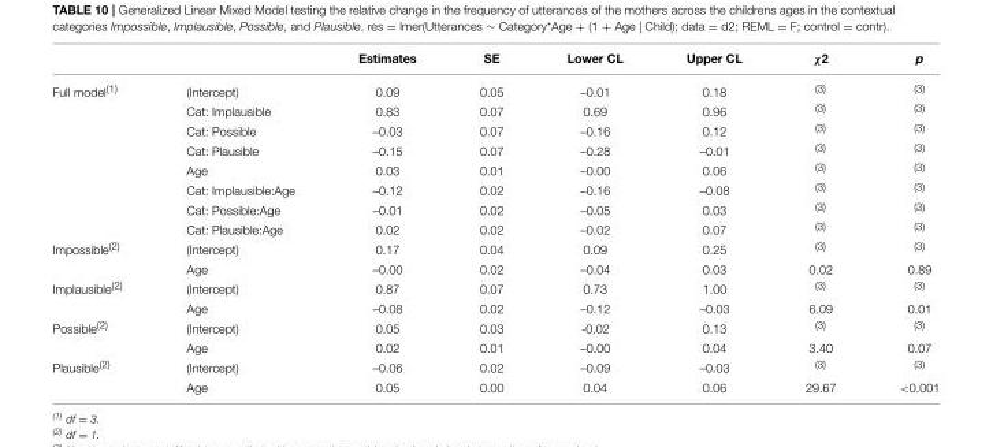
<table><thead><tr><td></td><td></td><td>Estimates</td><td>SE</td><td>Lower CL</td><td>Upper CL</td><td>χ2</td><td>p</td></tr></thead><tbody><tr><td rowspan="8">Full model<sup>(1)</sup></td><td>(Intercept)</td><td>0.09</td><td>0.05</td><td>–0.01</td><td>0.18</td><td><sup>(3)</sup></td><td><sup>(3)</sup></td></tr><tr><td>Cat: Implausible</td><td>0.83</td><td>0.07</td><td>0.69</td><td>0.96</td><td><sup>(3)</sup></td><td><sup>(3)</sup></td></tr><tr><td>Cat: Possible</td><td>–0.03</td><td>0.07</td><td>–0.16</td><td>0.12</td><td><sup>(3)</sup></td><td><sup>(3)</sup></td></tr><tr><td>Cat: Plausible</td><td>–0.15</td><td>0.07</td><td>–0.28</td><td>–0.01</td><td><sup>(3)</sup></td><td><sup>(3)</sup></td></tr><tr><td>Age</td><td>0.03</td><td>0.01</td><td>–0.00</td><td>0.06</td><td><sup>(3)</sup></td><td><sup>(3)</sup></td></tr><tr><td>Cat: Implausible:Age</td><td>–0.12</td><td>0.02</td><td>–0.16</td><td>–0.08</td><td><sup>(3)</sup></td><td><sup>(3)</sup></td></tr><tr><td>Cat: Possible:Age</td><td>–0.01</td><td>0.02</td><td>–0.05</td><td>0.03</td><td><sup>(3)</sup></td><td><sup>(3)</sup></td></tr><tr><td>Cat: Plausible:Age</td><td>0.02</td><td>0.02</td><td>–0.02</td><td>0.07</td><td><sup>(3)</sup></td><td><sup>(3)</sup></td></tr><tr><td rowspan="2">Impossible<sup>(2)</sup></td><td>(Intercept)</td><td>0.17</td><td>0.04</td><td>0.09</td><td>0.25</td><td><sup>(3)</sup></td><td><sup>(3)</sup></td></tr><tr><td>Age</td><td>–0.00</td><td>0.02</td><td>–0.04</td><td>0.03</td><td>0.02</td><td>0.89</td></tr><tr><td rowspan="2">Implausible<sup>(2)</sup></td><td>(Intercept)</td><td>0.87</td><td>0.07</td><td>0.73</td><td>1.00</td><td><sup>(3)</sup></td><td><sup>(3)</sup></td></tr><tr><td>Age</td><td>–0.08</td><td>0.02</td><td>–0.12</td><td>–0.03</td><td>6.09</td><td>0.01</td></tr><tr><td rowspan="2">Possible<sup>(2)</sup></td><td>(Intercept)</td><td>0.05</td><td>0.03</td><td>-0.02</td><td>0.13</td><td><sup>(3)</sup></td><td><sup>(3)</sup></td></tr><tr><td>Age</td><td>0.02</td><td>0.01</td><td>–0.00</td><td>0.04</td><td>3.40</td><td>0.07</td></tr><tr><td rowspan="2">Plausible<sup>(2)</sup></td><td>(Intercept)</td><td>–0.06</td><td>0.02</td><td>–0.09</td><td>–0.03</td><td><sup>(3)</sup></td><td><sup>(3)</sup></td></tr><tr><td>Age</td><td>0.05</td><td>0.00</td><td>0.04</td><td>0.06</td><td>29.67</td><td>&lt;0.001</td></tr></tbody></table>